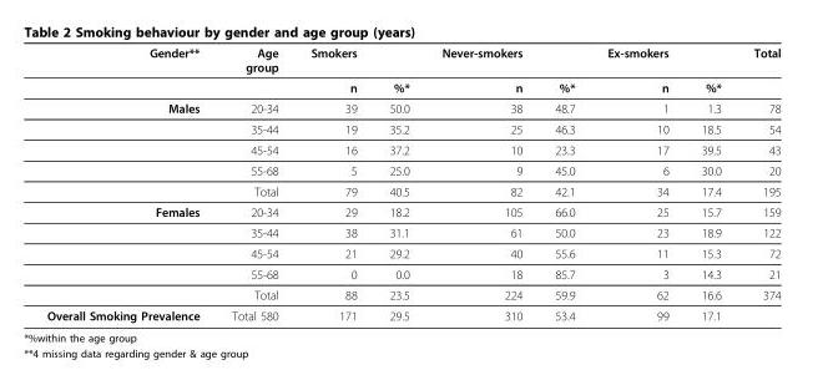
<table><thead><tr><td>Gender**</td><td>Age group</td><td>Smokers</td><td></td><td>Never-smokers</td><td></td><td>Ex-smokers</td><td></td><td>Total</td></tr></thead><tbody><tr><td></td><td></td><td>n</td><td>%*</td><td>n</td><td>%*</td><td>n</td><td>%*</td><td></td></tr><tr><td rowspan="5">Males</td><td>20-34</td><td>39</td><td>50.0</td><td>38</td><td>48.7</td><td>1</td><td>1.3</td><td>78</td></tr><tr><td>35-44</td><td>19</td><td>35.2</td><td>25</td><td>46.3</td><td>10</td><td>18.5</td><td>54</td></tr><tr><td>45-54</td><td>16</td><td>37.2</td><td>10</td><td>23.3</td><td>17</td><td>39.5</td><td>43</td></tr><tr><td>55-68</td><td>5</td><td>25.0</td><td>9</td><td>45.0</td><td>6</td><td>30.0</td><td>20</td></tr><tr><td>Total</td><td>79</td><td>40.5</td><td>82</td><td>42.1</td><td>34</td><td>17.4</td><td>195</td></tr><tr><td rowspan="5">Females</td><td>20-34</td><td>29</td><td>18.2</td><td>105</td><td>66.0</td><td>25</td><td>15.7</td><td>159</td></tr><tr><td>35-44</td><td>38</td><td>31.1</td><td>61</td><td>50.0</td><td>23</td><td>18.9</td><td>122</td></tr><tr><td>45-54</td><td>21</td><td>29.2</td><td>40</td><td>55.6</td><td>11</td><td>15.3</td><td>72</td></tr><tr><td>55-68</td><td>0</td><td>0.0</td><td>18</td><td>85.7</td><td>3</td><td>14.3</td><td>21</td></tr><tr><td>Total</td><td>88</td><td>23.5</td><td>224</td><td>59.9</td><td>62</td><td>16.6</td><td>374</td></tr><tr><td>Overall Smoking Prevalence</td><td>Total 580</td><td>171</td><td>29.5</td><td>310</td><td>53.4</td><td>99</td><td>17.1</td><td></td></tr></tbody></table>